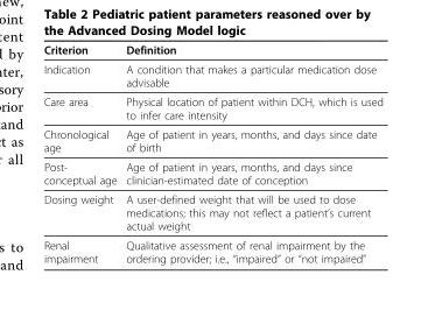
<table><thead><tr><td>Criterion</td><td>Definition</td></tr></thead><tbody><tr><td>Indication</td><td>A condition that makes a particular medication dose advisable</td></tr><tr><td>Care area</td><td>Physical location of patient within DCH, which is used to infer care intensity</td></tr><tr><td>Chronological age</td><td>Age of patient in years, months, and days since date of birth</td></tr><tr><td>Post- conceptual age</td><td>Age of patient in years, months, and days since clinician-estimated date of conception</td></tr><tr><td>Dosing weight</td><td>A user-defined weight that will be used to dose medications; this may not reflect a patient’s current actual weight</td></tr><tr><td>Renal impairment</td><td>Qualitative assessment of renal impairment by the ordering provider; i.e., “impaired” or “not impaired”</td></tr></tbody></table>